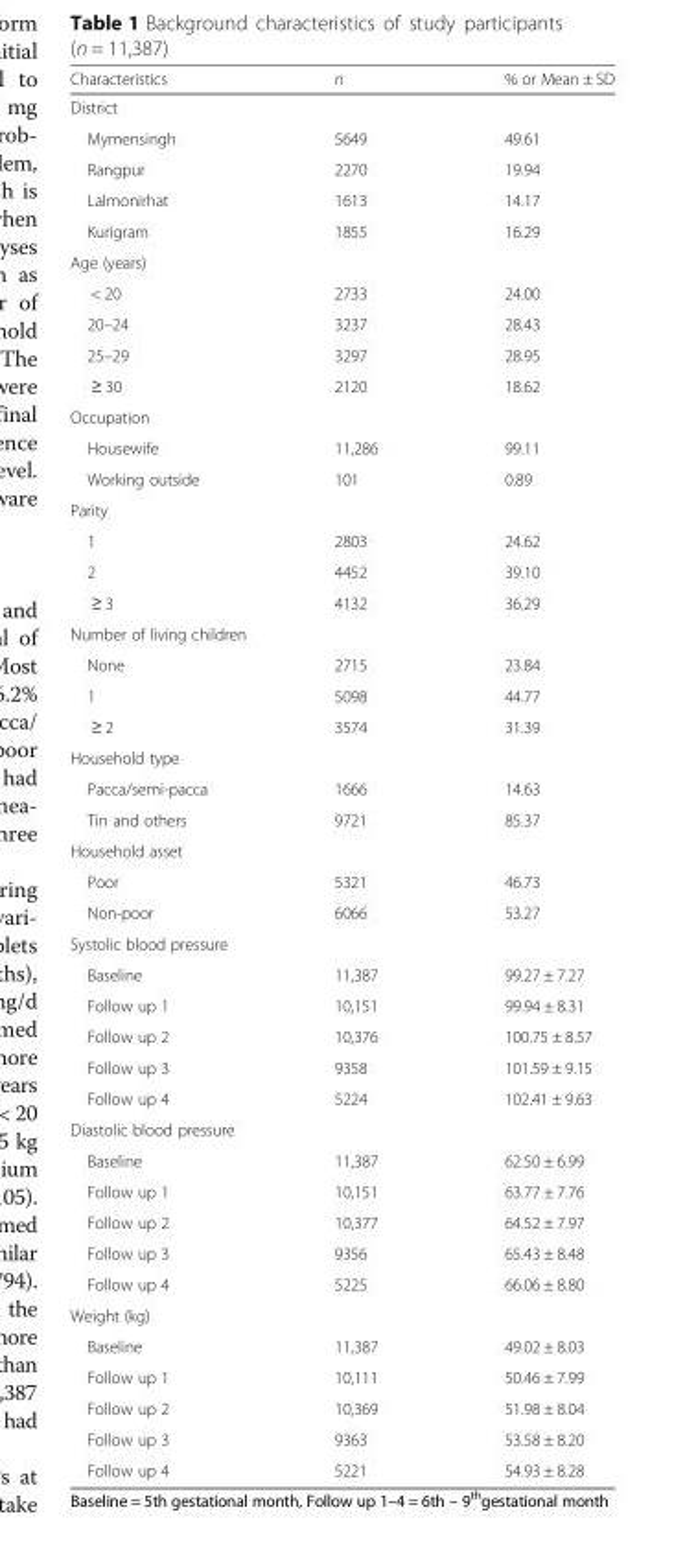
<table><thead><tr><td>Characteristics</td><td>n</td><td>% or Mean ± SD</td></tr></thead><tbody><tr><td colspan="3">District</td></tr><tr><td>Mymensingh</td><td>5649</td><td>49.61</td></tr><tr><td>Rangpur</td><td>2270</td><td>19.94</td></tr><tr><td>Lalmonirhat</td><td>1613</td><td>14.17</td></tr><tr><td>Kurigram</td><td>1855</td><td>16.29</td></tr><tr><td colspan="3">Age (years)</td></tr><tr><td>&lt; 20</td><td>2733</td><td>24.00</td></tr><tr><td>20–24</td><td>3237</td><td>28.43</td></tr><tr><td>25–29</td><td>3297</td><td>28.95</td></tr><tr><td>≥ 30</td><td>2120</td><td>18.62</td></tr><tr><td colspan="3">Occupation</td></tr><tr><td>Housewife</td><td>11,286</td><td>99.11</td></tr><tr><td>Working outside</td><td>101</td><td>0.89</td></tr><tr><td colspan="3">Parity</td></tr><tr><td>1</td><td>2803</td><td>24.62</td></tr><tr><td>2</td><td>4452</td><td>39.10</td></tr><tr><td>≥ 3</td><td>4132</td><td>36.29</td></tr><tr><td colspan="3">Number of living children</td></tr><tr><td>None</td><td>2715</td><td>23.84</td></tr><tr><td>1</td><td>5098</td><td>44.77</td></tr><tr><td>≥ 2</td><td>3574</td><td>31.39</td></tr><tr><td colspan="3">Household type</td></tr><tr><td>Pacca/semi-pacca</td><td>1666</td><td>14.63</td></tr><tr><td>Tin and others</td><td>9721</td><td>85.37</td></tr><tr><td colspan="3">Household asset</td></tr><tr><td>Poor</td><td>5321</td><td>46.73</td></tr><tr><td>Non-poor</td><td>6066</td><td>53.27</td></tr><tr><td colspan="3">Systolic blood pressure</td></tr><tr><td>Baseline</td><td>11,387</td><td>99.27 ± 7.27</td></tr><tr><td>Follow up 1</td><td>10,151</td><td>99.94 ± 8.31</td></tr><tr><td>Follow up 2</td><td>10,376</td><td>100.75 ± 8.57</td></tr><tr><td>Follow up 3</td><td>9358</td><td>101.59 ± 9.15</td></tr><tr><td>Follow up 4</td><td>5224</td><td>102.41 ± 9.63</td></tr><tr><td colspan="3">Diastolic blood pressure</td></tr><tr><td>Baseline</td><td>11,387</td><td>62.50 ± 6.99</td></tr><tr><td>Follow up 1</td><td>10,151</td><td>63.77 ± 7.76</td></tr><tr><td>Follow up 2</td><td>10,377</td><td>64.52 ± 7.97</td></tr><tr><td>Follow up 3</td><td>9356</td><td>65.43 ± 8.48</td></tr><tr><td>Follow up 4</td><td>5225</td><td>66.06 ± 8.80</td></tr><tr><td colspan="3">Weight (kg)</td></tr><tr><td>Baseline</td><td>11,387</td><td>49.02 ± 8.03</td></tr><tr><td>Follow up 1</td><td>10,111</td><td>50.46 ± 7.99</td></tr><tr><td>Follow up 2</td><td>10,369</td><td>51.98 ± 8.04</td></tr><tr><td>Follow up 3</td><td>9363</td><td>53.58 ± 8.20</td></tr><tr><td>Follow up 4</td><td>5221</td><td>54.93 ± 8.28</td></tr></tbody></table>